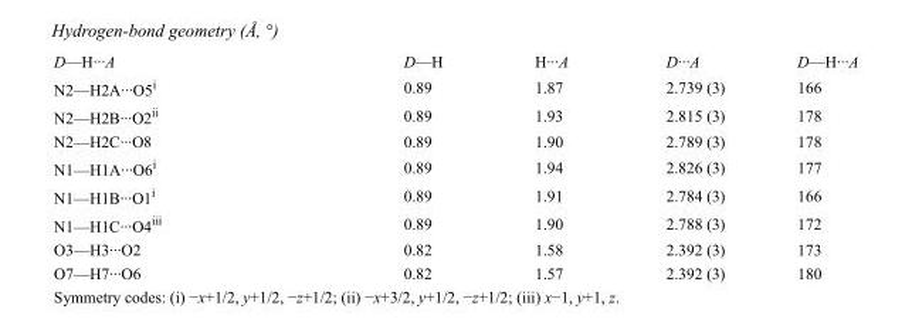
<table><tbody><tr><td>D—H···A</td><td>D—H</td><td>H···A</td><td>D···A</td><td>D—H···A</td></tr><tr><td>N2—H2A···O5<sup>i</sup></td><td>0.89</td><td>1.87</td><td>2.739 (3)</td><td>166</td></tr><tr><td>N2—H2B···O2<sup>ii</sup></td><td>0.89</td><td>1.93</td><td>2.815 (3)</td><td>178</td></tr><tr><td>N2—H2C···O8</td><td>0.89</td><td>1.90</td><td>2.789 (3)</td><td>178</td></tr><tr><td>N1—H1A···O6<sup>i</sup></td><td>0.89</td><td>1.94</td><td>2.826 (3)</td><td>177</td></tr><tr><td>N1—H1B···O1<sup>i</sup></td><td>0.89</td><td>1.91</td><td>2.784 (3)</td><td>166</td></tr><tr><td>N1—H1C···O4<sup>iii</sup></td><td>0.89</td><td>1.90</td><td>2.788 (3)</td><td>172</td></tr><tr><td>O3—H3···O2</td><td>0.82</td><td>1.58</td><td>2.392 (3)</td><td>173</td></tr><tr><td>O7—H7···O6</td><td>0.82</td><td>1.57</td><td>2.392 (3)</td><td>180</td></tr></tbody></table>